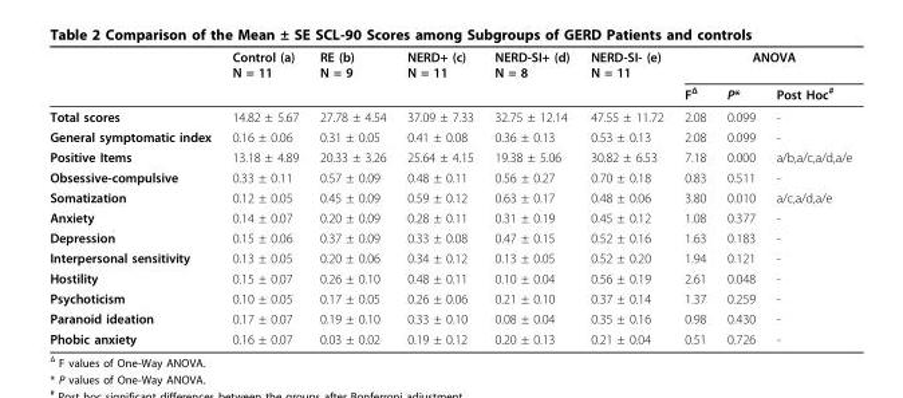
<table><thead><tr><td rowspan="2"></td><td rowspan="2">Control (a) N = 11</td><td rowspan="2">RE (b) N = 9</td><td rowspan="2">NERD+ (c) N = 11</td><td rowspan="2">NERD-SI+ (d) N = 8</td><td rowspan="2">NERD-SI- (e) N = 11</td><td colspan="3">ANOVA</td></tr><tr><td>F<sup>Δ</sup></td><td>P*</td><td>Post Hoc<sup>#</sup></td></tr></thead><tbody><tr><td>Total scores</td><td>14.82 ± 5.67</td><td>27.78 ± 4.54</td><td>37.09 ± 7.33</td><td>32.75 ± 12.14</td><td>47.55 ± 11.72</td><td>2.08</td><td>0.099</td><td>-</td></tr><tr><td>General symptomatic index</td><td>0.16 ± 0.06</td><td>0.31 ± 0.05</td><td>0.41 ± 0.08</td><td>0.36 ± 0.13</td><td>0.53 ± 0.13</td><td>2.08</td><td>0.099</td><td>-</td></tr><tr><td>Positive Items</td><td>13.18 ± 4.89</td><td>20.33 ± 3.26</td><td>25.64 ± 4.15</td><td>19.38 ± 5.06</td><td>30.82 ± 6.53</td><td>7.18</td><td>0.000</td><td>a/b,a/c,a/d,a/e</td></tr><tr><td>Obsessive-compulsive</td><td>0.33 ± 0.11</td><td>0.57 ± 0.09</td><td>0.48 ± 0.11</td><td>0.56 ± 0.27</td><td>0.70 ± 0.18</td><td>0.83</td><td>0.511</td><td>-</td></tr><tr><td>Somatization</td><td>0.12 ± 0.05</td><td>0.45 ± 0.09</td><td>0.59 ± 0.12</td><td>0.63 ± 0.17</td><td>0.48 ± 0.06</td><td>3.80</td><td>0.010</td><td>a/c,a/d,a/e</td></tr><tr><td>Anxiety</td><td>0.14 ± 0.07</td><td>0.20 ± 0.09</td><td>0.28 ± 0.11</td><td>0.31 ± 0.19</td><td>0.45 ± 0.12</td><td>1.08</td><td>0.377</td><td>-</td></tr><tr><td>Depression</td><td>0.15 ± 0.06</td><td>0.37 ± 0.09</td><td>0.33 ± 0.08</td><td>0.47 ± 0.15</td><td>0.52 ± 0.16</td><td>1.63</td><td>0.183</td><td>-</td></tr><tr><td>Interpersonal sensitivity</td><td>0.13 ± 0.05</td><td>0.20 ± 0.06</td><td>0.34 ± 0.12</td><td>0.13 ± 0.05</td><td>0.52 ± 0.20</td><td>1.94</td><td>0.121</td><td>-</td></tr><tr><td>Hostility</td><td>0.15 ± 0.07</td><td>0.26 ± 0.10</td><td>0.48 ± 0.11</td><td>0.10 ± 0.04</td><td>0.56 ± 0.19</td><td>2.61</td><td>0.048</td><td>-</td></tr><tr><td>Psychoticism</td><td>0.10 ± 0.05</td><td>0.17 ± 0.05</td><td>0.26 ± 0.06</td><td>0.21 ± 0.10</td><td>0.37 ± 0.14</td><td>1.37</td><td>0.259</td><td>-</td></tr><tr><td>Paranoid ideation</td><td>0.17 ± 0.07</td><td>0.19 ± 0.10</td><td>0.33 ± 0.10</td><td>0.08 ± 0.04</td><td>0.35 ± 0.16</td><td>0.98</td><td>0.430</td><td>-</td></tr><tr><td>Phobic anxiety</td><td>0.16 ± 0.07</td><td>0.03 ± 0.02</td><td>0.19 ± 0.12</td><td>0.20 ± 0.13</td><td>0.21 ± 0.04</td><td>0.51</td><td>0.726</td><td>-</td></tr></tbody></table>